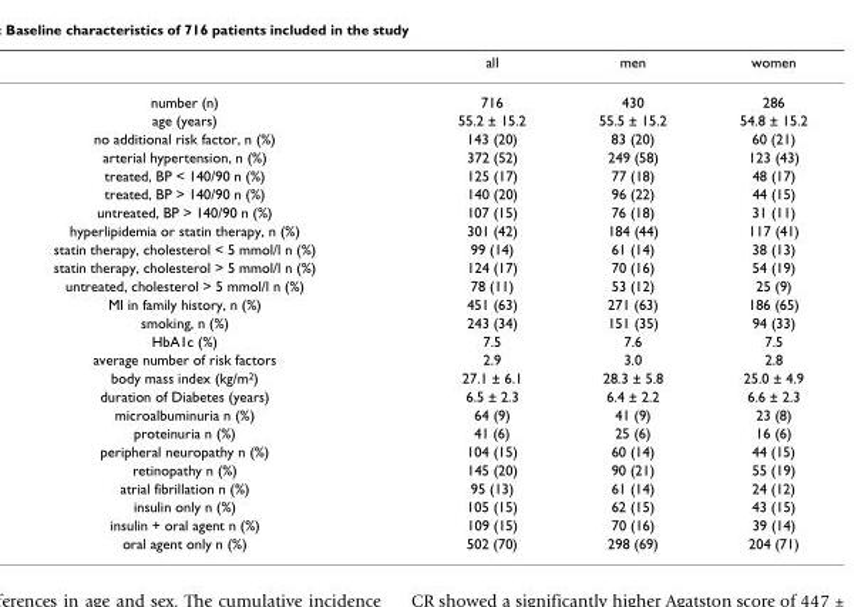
<table><thead><tr><td></td><td>all</td><td>men</td><td>women</td></tr></thead><tbody><tr><td>number (n)</td><td>716</td><td>430</td><td>286</td></tr><tr><td>age (years)</td><td>55.2 ± 15.2</td><td>55.5 ± 15.2</td><td>54.8 ± 15.2</td></tr><tr><td>no additional risk factor, n (%)</td><td>143 (20)</td><td>83 (20)</td><td>60 (21)</td></tr><tr><td>arterial hypertension, n (%)</td><td>372 (52)</td><td>249 (58)</td><td>123 (43)</td></tr><tr><td>treated, BP &lt; 140/90 n (%)</td><td>125 (17)</td><td>77 (18)</td><td>48 (17)</td></tr><tr><td>treated, BP &gt; 140/90 n (%)</td><td>140 (20)</td><td>96 (22)</td><td>44 (15)</td></tr><tr><td>untreated, BP &gt; 140/90 n (%)</td><td>107 (15)</td><td>76 (18)</td><td>31 (11)</td></tr><tr><td>hyperlipidemia or statin therapy, n (%)</td><td>301 (42)</td><td>184 (44)</td><td>117 (41)</td></tr><tr><td>statin therapy, cholesterol &lt; 5 mmol/l n (%)</td><td>99 (14)</td><td>61 (14)</td><td>38 (13)</td></tr><tr><td>statin therapy, cholesterol &gt; 5 mmol/l n (%)</td><td>124 (17)</td><td>70 (16)</td><td>54 (19)</td></tr><tr><td>untreated, cholesterol &gt; 5 mmol/l n (%)</td><td>78 (11)</td><td>53 (12)</td><td>25 (9)</td></tr><tr><td>MI in family history, n (%)</td><td>451 (63)</td><td>271 (63)</td><td>186 (65)</td></tr><tr><td>smoking, n (%)</td><td>243 (34)</td><td>151 (35)</td><td>94 (33)</td></tr><tr><td>HbA1c (%)</td><td>7.5</td><td>7.6</td><td>7.5</td></tr><tr><td>average number of risk factors</td><td>2.9</td><td>3.0</td><td>2.8</td></tr><tr><td>body mass index (kg/m<sup>2</sup>)</td><td>27.1 ± 6.1</td><td>28.3 ± 5.8</td><td>25.0 ± 4.9</td></tr><tr><td>duration of Diabetes (years)</td><td>6.5 ± 2.3</td><td>6.4 ± 2.2</td><td>6.6 ± 2.3</td></tr><tr><td>microalbuminuria n (%)</td><td>64 (9)</td><td>41 (9)</td><td>23 (8)</td></tr><tr><td>proteinuria n (%)</td><td>41 (6)</td><td>25 (6)</td><td>16 (6)</td></tr><tr><td>peripheral neuropathy n (%)</td><td>104 (15)</td><td>60 (14)</td><td>44 (15)</td></tr><tr><td>retinopathy n (%)</td><td>145 (20)</td><td>90 (21)</td><td>55 (19)</td></tr><tr><td>atrial fibrillation n (%)</td><td>95 (13)</td><td>61 (14)</td><td>24 (12)</td></tr><tr><td>insulin only n (%)</td><td>105 (15)</td><td>62 (15)</td><td>43 (15)</td></tr><tr><td>insulin + oral agent n (%)</td><td>109 (15)</td><td>70 (16)</td><td>39 (14)</td></tr><tr><td>oral agent only n (%)</td><td>502 (70)</td><td>298 (69)</td><td>204 (71)</td></tr></tbody></table>